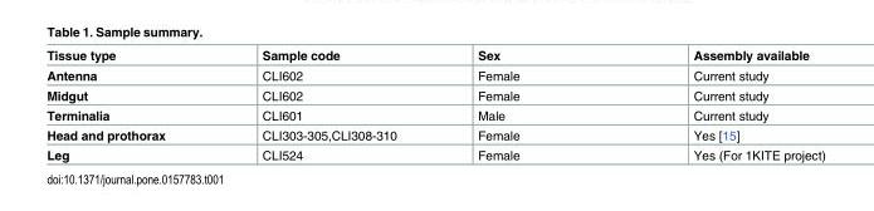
<table><thead><tr><td>Tissue type</td><td>Sample code</td><td>Sex</td><td>Assembly available</td></tr></thead><tbody><tr><td>Antenna</td><td>CLI602</td><td>Female</td><td>Current study</td></tr><tr><td>Midgut</td><td>CLI602</td><td>Female</td><td>Current study</td></tr><tr><td>Terminalia</td><td>CLI601</td><td>Male</td><td>Current study</td></tr><tr><td>Head and prothorax</td><td>CLI303-305,CLI308-310</td><td>Female</td><td>Yes [15]</td></tr><tr><td>Leg</td><td>CLI524</td><td>Female</td><td>Yes (For 1KITE project)</td></tr></tbody></table>